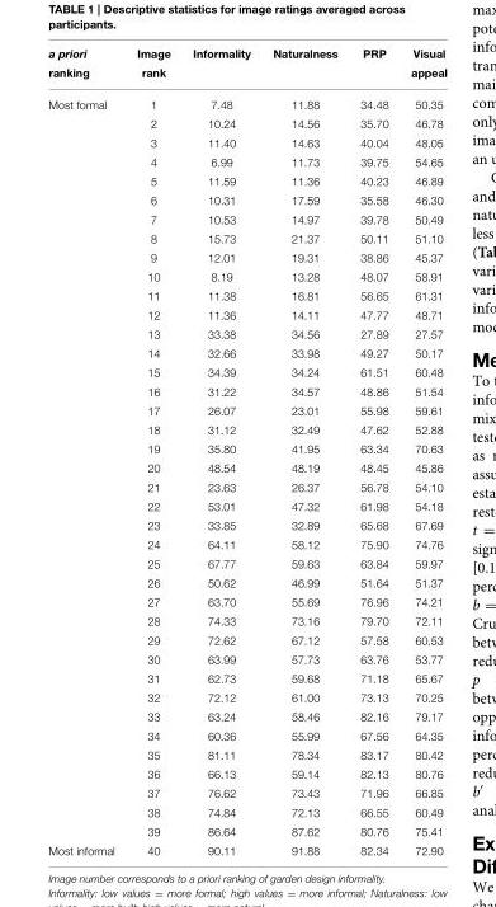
<table><thead><tr><td>a priori ranking</td><td>Image rank</td><td>Informality</td><td>Naturalness</td><td>PRP</td><td>Visual appeal</td></tr></thead><tbody><tr><td rowspan="39">Most formal</td><td>1</td><td>7.48</td><td>11.88</td><td>34.48</td><td>50.35</td></tr><tr><td>2</td><td>10.24</td><td>14.56</td><td>35.70</td><td>46.78</td></tr><tr><td>3</td><td>11.40</td><td>14.63</td><td>40.04</td><td>48.05</td></tr><tr><td>4</td><td>6.99</td><td>11.73</td><td>39.75</td><td>54.65</td></tr><tr><td>5</td><td>11.59</td><td>11.36</td><td>40.23</td><td>46.89</td></tr><tr><td>6</td><td>10.31</td><td>17.59</td><td>35.58</td><td>46.30</td></tr><tr><td>7</td><td>10.53</td><td>14.97</td><td>39.78</td><td>50.49</td></tr><tr><td>8</td><td>15.73</td><td>21.37</td><td>50.11</td><td>51.10</td></tr><tr><td>9</td><td>12.01</td><td>19.31</td><td>38.86</td><td>45.37</td></tr><tr><td>10</td><td>8.19</td><td>13.28</td><td>48.07</td><td>58.91</td></tr><tr><td>11</td><td>11.38</td><td>16.81</td><td>56.65</td><td>61.31</td></tr><tr><td>12</td><td>11.36</td><td>14.11</td><td>47.77</td><td>48.71</td></tr><tr><td>13</td><td>33.38</td><td>34.56</td><td>27.89</td><td>27.57</td></tr><tr><td>14</td><td>32.66</td><td>33.98</td><td>49.27</td><td>50.17</td></tr><tr><td>15</td><td>34.39</td><td>34.24</td><td>61.51</td><td>60.48</td></tr><tr><td>16</td><td>31.22</td><td>34.57</td><td>48.86</td><td>51.54</td></tr><tr><td>17</td><td>26.07</td><td>23.01</td><td>55.98</td><td>59.61</td></tr><tr><td>18</td><td>31.12</td><td>32.49</td><td>47.62</td><td>52.88</td></tr><tr><td>19</td><td>35.80</td><td>41.95</td><td>63.34</td><td>70.63</td></tr><tr><td>20</td><td>48.54</td><td>48.19</td><td>48.45</td><td>45.86</td></tr><tr><td>21</td><td>23.63</td><td>26.37</td><td>56.78</td><td>54.10</td></tr><tr><td>22</td><td>53.01</td><td>47.32</td><td>61.98</td><td>54.18</td></tr><tr><td>23</td><td>33.85</td><td>32.89</td><td>65.68</td><td>67.69</td></tr><tr><td>24</td><td>64.11</td><td>58.12</td><td>75.90</td><td>74.76</td></tr><tr><td>25</td><td>67.77</td><td>59.63</td><td>63.84</td><td>59.97</td></tr><tr><td>26</td><td>50.62</td><td>46.99</td><td>51.64</td><td>51.37</td></tr><tr><td>27</td><td>63.70</td><td>55.69</td><td>76.96</td><td>74.21</td></tr><tr><td>28</td><td>74.33</td><td>73.16</td><td>79.70</td><td>72.11</td></tr><tr><td>29</td><td>72.62</td><td>67.12</td><td>57.58</td><td>60.53</td></tr><tr><td>30</td><td>63.99</td><td>57.73</td><td>63.76</td><td>53.77</td></tr><tr><td>31</td><td>62.73</td><td>59.68</td><td>71.18</td><td>65.67</td></tr><tr><td>32</td><td>72.12</td><td>61.00</td><td>73.13</td><td>70.25</td></tr><tr><td>33</td><td>63.24</td><td>58.46</td><td>82.16</td><td>79.17</td></tr><tr><td>34</td><td>60.36</td><td>55.99</td><td>67.56</td><td>64.35</td></tr><tr><td>35</td><td>81.11</td><td>78.34</td><td>83.17</td><td>80.42</td></tr><tr><td>36</td><td>66.13</td><td>59.14</td><td>82.13</td><td>80.76</td></tr><tr><td>37</td><td>76.62</td><td>73.43</td><td>71.96</td><td>66.85</td></tr><tr><td>38</td><td>74.84</td><td>72.13</td><td>66.55</td><td>60.49</td></tr><tr><td>39</td><td>86.64</td><td>87.62</td><td>80.76</td><td>75.41</td></tr><tr><td>Most informal</td><td>40</td><td>90.11</td><td>91.88</td><td>82.34</td><td>72.90</td></tr></tbody></table>